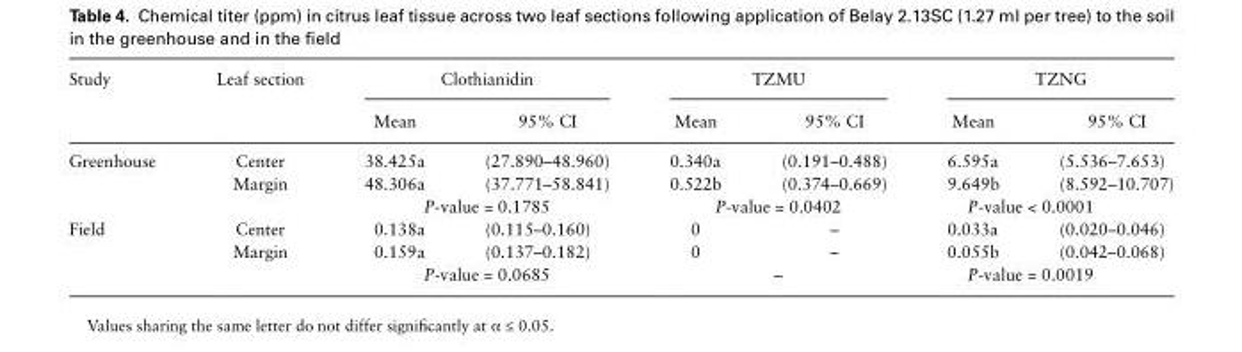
<table><thead><tr><td rowspan="2">Study</td><td rowspan="2">Leaf section</td><td colspan="2">Clothianidin</td><td colspan="2">TZMU</td><td colspan="2">TZNG</td></tr><tr><td>Mean</td><td>95% CI</td><td>Mean</td><td>95% CI</td><td>Mean</td><td>95% CI</td></tr></thead><tbody><tr><td rowspan="3">Greenhouse</td><td>Center</td><td>38.425a</td><td>(27.890–48.960)</td><td>0.340a</td><td>(0.191–0.488)</td><td>6.595a</td><td>(5.536–7.653)</td></tr><tr><td>Margin</td><td>48.306a</td><td>(37.771–58.841)</td><td>0.522b</td><td>(0.374–0.669)</td><td>9.649b</td><td>(8.592–10.707)</td></tr><tr><td></td><td colspan="2">P-value = 0.1785</td><td colspan="2">P-value = 0.0402</td><td colspan="2">P-value &lt; 0.0001</td></tr><tr><td rowspan="3">Field</td><td>Center</td><td>0.138a</td><td>(0.115–0.160)</td><td>0</td><td>–</td><td>0.033a</td><td>(0.020–0.046)</td></tr><tr><td>Margin</td><td>0.159a</td><td>(0.137–0.182)</td><td>0</td><td>–</td><td>0.055b</td><td>(0.042–0.068)</td></tr><tr><td></td><td colspan="2">P-value = 0.0685</td><td colspan="2">–</td><td colspan="2">P-value = 0.0019</td></tr></tbody></table>